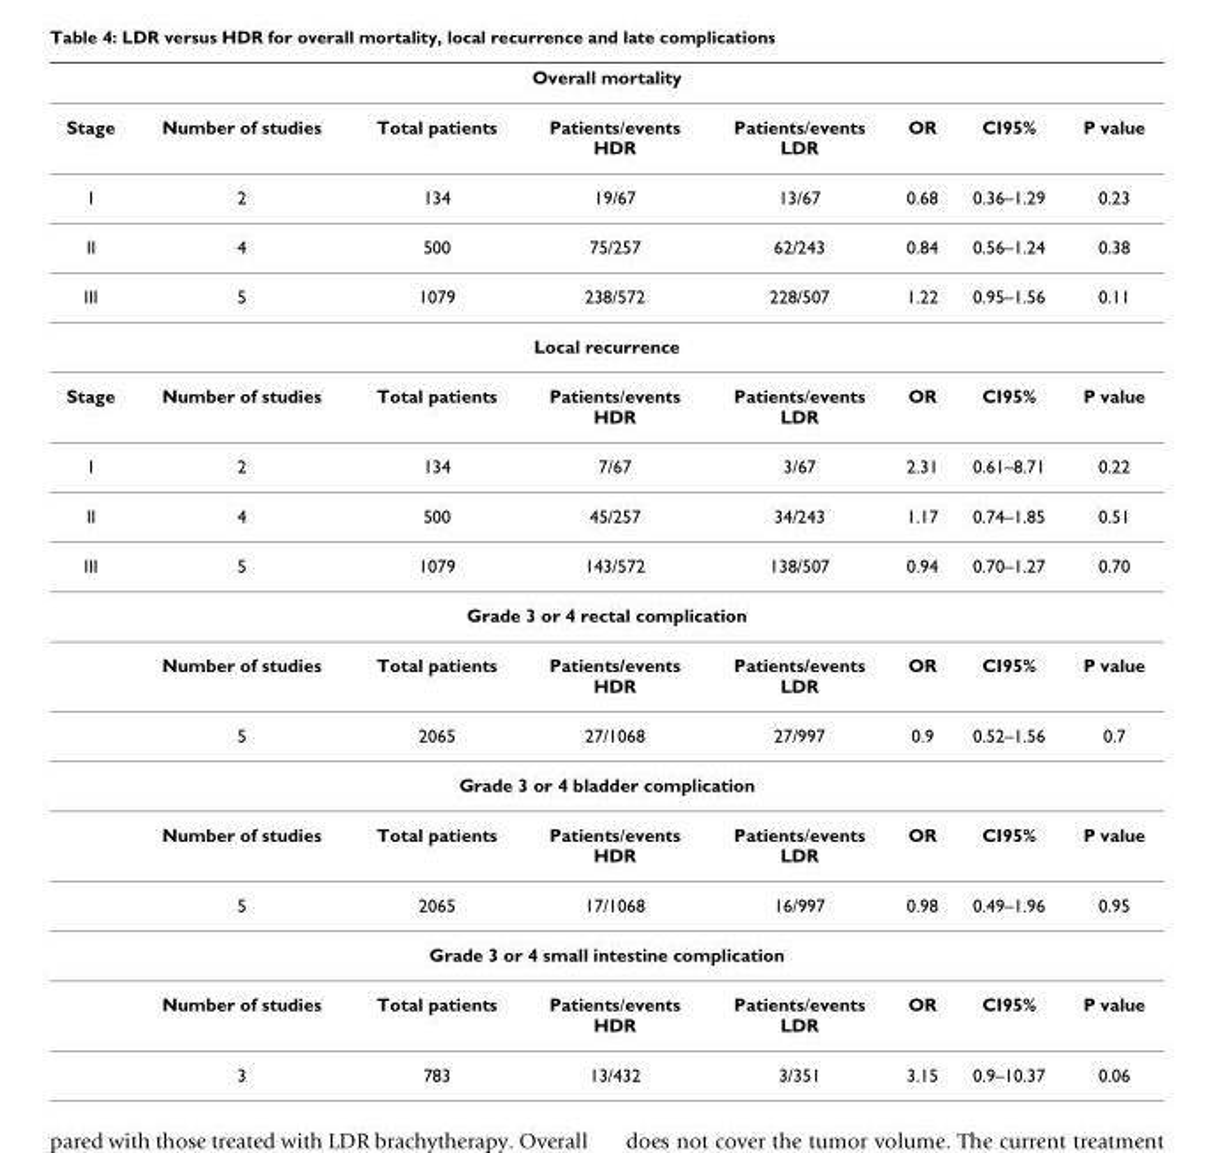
<table><thead><tr><td colspan="8">Overall mortality</td></tr><tr><td>Stage</td><td>Number of studies</td><td>Total patients</td><td>Patients/events HDR</td><td>Patients/events LDR</td><td>OR</td><td>CI95%</td><td>P value</td></tr></thead><tbody><tr><td>I</td><td>2</td><td>134</td><td>19/67</td><td>13/67</td><td>0.68</td><td>0.36–1.29</td><td>0.23</td></tr><tr><td>II</td><td>4</td><td>500</td><td>75/257</td><td>62/243</td><td>0.84</td><td>0.56–1.24</td><td>0.38</td></tr><tr><td>III</td><td>5</td><td>1079</td><td>238/572</td><td>228/507</td><td>1.22</td><td>0.95–1.56</td><td>0.11</td></tr><tr><td colspan="8">Local recurrence</td></tr><tr><td>Stage</td><td>Number of studies</td><td>Total patients</td><td>Patients/events HDR</td><td>Patients/events LDR</td><td>OR</td><td>CI95%</td><td>P value</td></tr><tr><td>I</td><td>2</td><td>134</td><td>7/67</td><td>3/67</td><td>2.31</td><td>0.61–8.71</td><td>0.22</td></tr><tr><td>II</td><td>4</td><td>500</td><td>45/257</td><td>34/243</td><td>1.17</td><td>0.74–1.85</td><td>0.51</td></tr><tr><td>III</td><td>5</td><td>1079</td><td>143/572</td><td>138/507</td><td>0.94</td><td>0.70–1.27</td><td>0.70</td></tr><tr><td colspan="8">Grade 3 or 4 rectal complication</td></tr><tr><td></td><td>Number of studies</td><td>Total patients</td><td>Patients/events HDR</td><td>Patients/events LDR</td><td>OR</td><td>CI95%</td><td>P value</td></tr><tr><td></td><td>5</td><td>2065</td><td>27/1068</td><td>27/997</td><td>0.9</td><td>0.52–1.56</td><td>0.7</td></tr><tr><td colspan="8">Grade 3 or 4 bladder complication</td></tr><tr><td></td><td>Number of studies</td><td>Total patients</td><td>Patients/events HDR</td><td>Patients/events LDR</td><td>OR</td><td>CI95%</td><td>P value</td></tr><tr><td></td><td>5</td><td>2065</td><td>17/1068</td><td>16/997</td><td>0.98</td><td>0.49–1.96</td><td>0.95</td></tr><tr><td colspan="8">Grade 3 or 4 small intestine complication</td></tr><tr><td></td><td>Number of studies</td><td>Total patients</td><td>Patients/events HDR</td><td>Patients/events LDR</td><td>OR</td><td>CI95%</td><td>P value</td></tr><tr><td></td><td>3</td><td>783</td><td>13/432</td><td>3/351</td><td>3.15</td><td>0.9–10.37</td><td>0.06</td></tr></tbody></table>